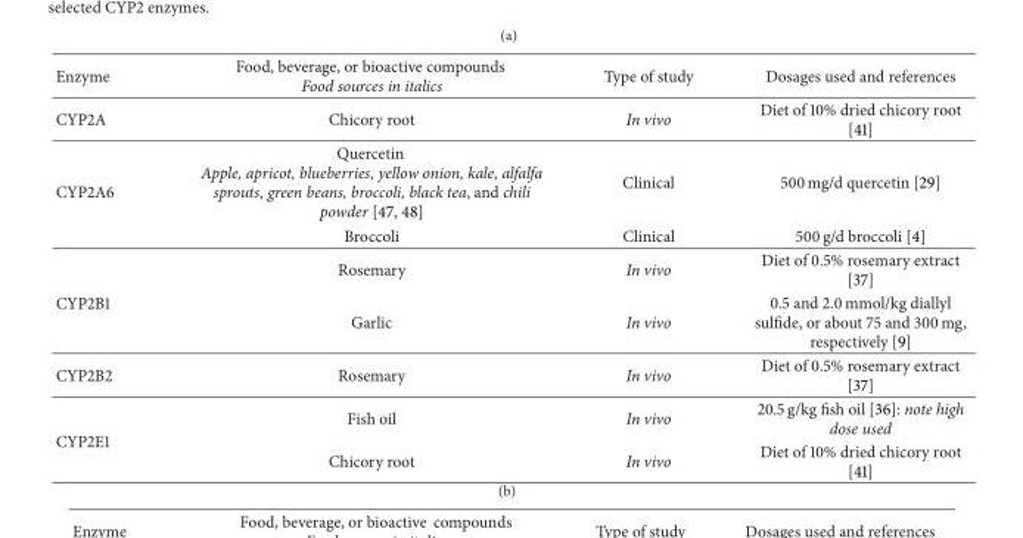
<table><thead><tr><td>Enzyme</td><td>Food, beverage, or bioactive compounds Food sources in italics</td><td>Type of study</td><td>Dosages used and references</td></tr></thead><tbody><tr><td>CYP2A</td><td>Chicory root</td><td>In vivo</td><td>Diet of 10% dried chicory root [41]</td></tr><tr><td rowspan="2">CYP2A6</td><td>Quercetin Apple, apricot, blueberries, yellow onion, kale, alfalfa sprouts, green beans, broccoli, black tea, and chili powder [47, 48]</td><td>Clinical</td><td>500 mg/d quercetin [29]</td></tr><tr><td>Broccoli</td><td>Clinical</td><td>500 g/d broccoli [4]</td></tr><tr><td rowspan="2">CYP2B1</td><td>Rosemary</td><td>In vivo</td><td>Diet of 0.5% rosemary extract [37]</td></tr><tr><td>Garlic</td><td>In vivo</td><td>0.5 and 2.0 mmol/kg diallyl sulfide, or about 75 and 300 mg, respectively [9]</td></tr><tr><td>CYP2B2</td><td>Rosemary</td><td>In vivo</td><td>Diet of 0.5% rosemary extract [37]</td></tr><tr><td rowspan="2">CYP2E1</td><td>Fish oil</td><td>In vivo</td><td>20.5 g/kg fish oil [36]: note high dose used</td></tr><tr><td>Chicory root</td><td>In vivo</td><td>Diet of 10% dried chicory root [41]</td></tr></tbody></table>